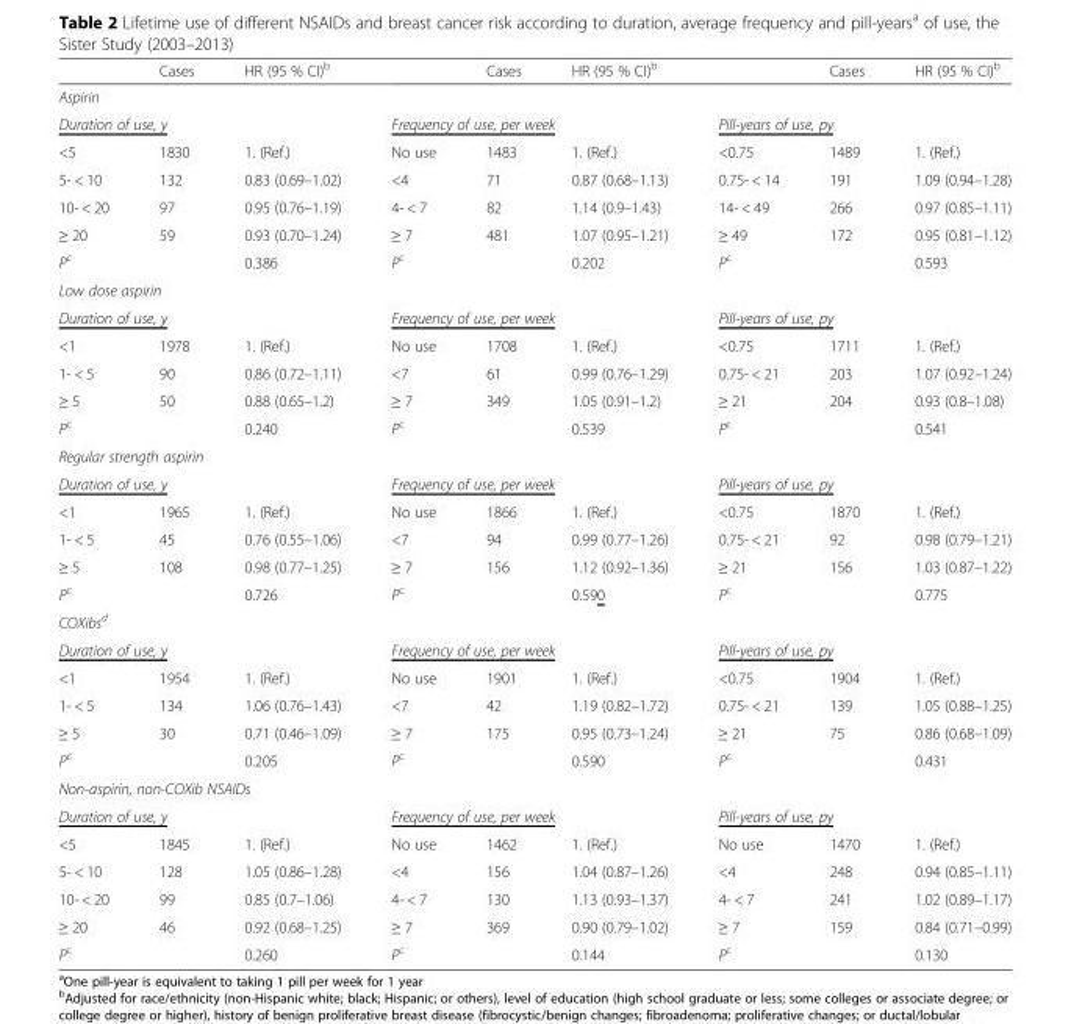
<table><thead><tr><td></td><td>Cases</td><td>HR (95 % CI)<sup>b</sup></td><td></td><td>Cases</td><td>HR (95 % CI)<sup>b</sup></td><td></td><td>Cases</td><td>HR (95 % CI)<sup>b</sup></td></tr></thead><tbody><tr><td colspan="9">Aspirin</td></tr><tr><td colspan="3">Duration of use, y</td><td colspan="3">Frequency of use, per week</td><td colspan="3">Pill-years of use, py</td></tr><tr><td>&lt;5</td><td>1830</td><td>1. (Ref.)</td><td>No use</td><td>1483</td><td>1. (Ref.)</td><td>&lt;0.75</td><td>1489</td><td>1. (Ref.)</td></tr><tr><td>5- &lt; 10</td><td>132</td><td>0.83 (0.69–1.02)</td><td>&lt;4</td><td>71</td><td>0.87 (0.68–1.13)</td><td>0.75- &lt; 14</td><td>191</td><td>1.09 (0.94–1.28)</td></tr><tr><td>10- &lt; 20</td><td>97</td><td>0.95 (0.76–1.19)</td><td>4- &lt; 7</td><td>82</td><td>1.14 (0.9–1.43)</td><td>14- &lt; 49</td><td>266</td><td>0.97 (0.85–1.11)</td></tr><tr><td>≥ 20</td><td>59</td><td>0.93 (0.70–1.24)</td><td>≥ 7</td><td>481</td><td>1.07 (0.95–1.21)</td><td>≥ 49</td><td>172</td><td>0.95 (0.81–1.12)</td></tr><tr><td>P<sup>c</sup></td><td></td><td>0.386</td><td>P<sup>c</sup></td><td></td><td>0.202</td><td>P<sup>c</sup></td><td></td><td>0.593</td></tr><tr><td colspan="9">Low dose aspirin</td></tr><tr><td colspan="3">Duration of use, y</td><td colspan="3">Frequency of use, per week</td><td colspan="3">Pill-years of use, py</td></tr><tr><td>&lt;1</td><td>1978</td><td>1. (Ref.)</td><td>No use</td><td>1708</td><td>1. (Ref.)</td><td>&lt;0.75</td><td>1711</td><td>1. (Ref.)</td></tr><tr><td>1- &lt; 5</td><td>90</td><td>0.86 (0.72–1.11)</td><td>&lt;7</td><td>61</td><td>0.99 (0.76–1.29)</td><td>0.75- &lt; 21</td><td>203</td><td>1.07 (0.92–1.24)</td></tr><tr><td>≥ 5</td><td>50</td><td>0.88 (0.65–1.2)</td><td>≥ 7</td><td>349</td><td>1.05 (0.91–1.2)</td><td>≥ 21</td><td>204</td><td>0.93 (0.8–1.08)</td></tr><tr><td>P<sup>c</sup></td><td></td><td>0.240</td><td>P<sup>c</sup></td><td></td><td>0.539</td><td>P<sup>c</sup></td><td></td><td>0.541</td></tr><tr><td colspan="9">Regular strength aspirin</td></tr><tr><td colspan="3">Duration of use, y</td><td colspan="3">Frequency of use, per week</td><td colspan="3">Pill-years of use, py</td></tr><tr><td>&lt;1</td><td>1965</td><td>1. (Ref.)</td><td>No use</td><td>1866</td><td>1. (Ref.)</td><td>&lt;0.75</td><td>1870</td><td>1. (Ref.)</td></tr><tr><td>1- &lt; 5</td><td>45</td><td>0.76 (0.55–1.06)</td><td>&lt;7</td><td>94</td><td>0.99 (0.77–1.26)</td><td>0.75- &lt; 21</td><td>92</td><td>0.98 (0.79–1.21)</td></tr><tr><td>≥ 5</td><td>108</td><td>0.98 (0.77–1.25)</td><td>≥ 7</td><td>156</td><td>1.12 (0.92–1.36)</td><td>≥ 21</td><td>156</td><td>1.03 (0.87–1.22)</td></tr><tr><td>P<sup>c</sup></td><td></td><td>0.726</td><td>P<sup>c</sup></td><td></td><td>0.590</td><td>P<sup>c</sup></td><td></td><td>0.775</td></tr><tr><td colspan="9">COXibs<sup>d</sup></td></tr><tr><td colspan="3">Duration of use, y</td><td colspan="3">Frequency of use, per week</td><td colspan="3">Pill-years of use, py</td></tr><tr><td>&lt;1</td><td>1954</td><td>1. (Ref.)</td><td>No use</td><td>1901</td><td>1. (Ref.)</td><td>&lt;0.75</td><td>1904</td><td>1. (Ref.)</td></tr><tr><td>1- &lt; 5</td><td>134</td><td>1.06 (0.76–1.43)</td><td>&lt;7</td><td>42</td><td>1.19 (0.82–1.72)</td><td>0.75- &lt; 21</td><td>139</td><td>1.05 (0.88–1.25)</td></tr><tr><td>≥ 5</td><td>30</td><td>0.71 (0.46–1.09)</td><td>≥ 7</td><td>175</td><td>0.95 (0.73–1.24)</td><td>≥ 21</td><td>75</td><td>0.86 (0.68–1.09)</td></tr><tr><td>P<sup>c</sup></td><td></td><td>0.205</td><td>P<sup>c</sup></td><td></td><td>0.590</td><td>P<sup>c</sup></td><td></td><td>0.431</td></tr><tr><td colspan="9">Non-aspirin, non-COXib NSAIDs</td></tr><tr><td colspan="3">Duration of use, y</td><td colspan="3">Frequency of use, per week</td><td colspan="3">Pill-years of use, py</td></tr><tr><td>&lt;5</td><td>1845</td><td>1. (Ref.)</td><td>No use</td><td>1462</td><td>1. (Ref.)</td><td>No use</td><td>1470</td><td>1. (Ref.)</td></tr><tr><td>5- &lt; 10</td><td>128</td><td>1.05 (0.86–1.28)</td><td>&lt;4</td><td>156</td><td>1.04 (0.87–1.26)</td><td>&lt;4</td><td>248</td><td>0.94 (0.85–1.11)</td></tr><tr><td>10- &lt; 20</td><td>99</td><td>0.85 (0.7–1.06)</td><td>4- &lt; 7</td><td>130</td><td>1.13 (0.93–1.37)</td><td>4- &lt; 7</td><td>241</td><td>1.02 (0.89–1.17)</td></tr><tr><td>≥ 20</td><td>46</td><td>0.92 (0.68–1.25)</td><td>≥ 7</td><td>369</td><td>0.90 (0.79–1.02)</td><td>≥ 7</td><td>159</td><td>0.84 (0.71–0.99)</td></tr><tr><td>P<sup>c</sup></td><td></td><td>0.260</td><td>P<sup>c</sup></td><td></td><td>0.144</td><td>P<sup>c</sup></td><td></td><td>0.130</td></tr></tbody></table>